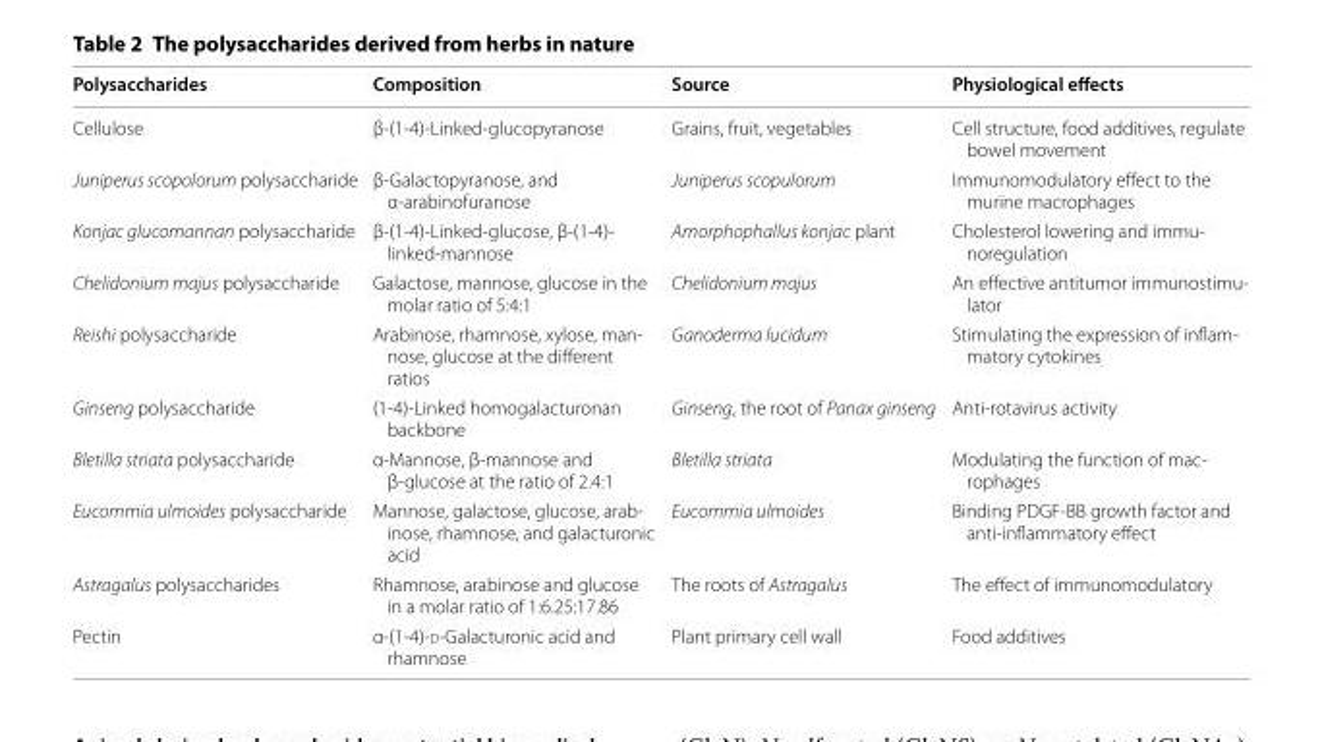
<table><thead><tr><td>Polysaccharides</td><td>Composition</td><td>Source</td><td>Physiological effects</td></tr></thead><tbody><tr><td>Cellulose</td><td>β-(1-4)-Linked-glucopyranose</td><td>Grains, fruit, vegetables</td><td>Cell structure, food additives, regulate bowel movement</td></tr><tr><td>Juniperus scopolorum polysaccharide</td><td>β-Galactopyranose, and α-arabinofuranose</td><td>Juniperus scopulorum</td><td>Immunomodulatory effect to the murine macrophages</td></tr><tr><td>Konjac glucomannan polysaccharide</td><td>β-(1-4)-Linked-glucose, β-(1-4)- linked-mannose</td><td>Amorphophallus konjac plant</td><td>Cholesterol lowering and immu- noregulation</td></tr><tr><td>Chelidonium majus polysaccharide</td><td>Galactose, mannose, glucose in the molar ratio of 5:4:1</td><td>Chelidonium majus</td><td>An effective antitumor immunostimu- lator</td></tr><tr><td>Reishi polysaccharide</td><td>Arabinose, rhamnose, xylose, man- nose, glucose at the different ratios</td><td>Ganoderma lucidum</td><td>Stimulating the expression of inflam- matory cytokines</td></tr><tr><td>Ginseng polysaccharide</td><td>(1-4)-Linked homogalacturonan backbone</td><td>Ginseng, the root of Panax ginseng</td><td>Anti-rotavirus activity</td></tr><tr><td>Bletilla striata polysaccharide</td><td>α-Mannose, β-mannose and β-glucose at the ratio of 2.4:1</td><td>Bletilla striata</td><td>Modulating the function of mac- rophages</td></tr><tr><td>Eucommia ulmoides polysaccharide</td><td>Mannose, galactose, glucose, arab- inose, rhamnose, and galacturonic acid</td><td>Eucommia ulmoides</td><td>Binding PDGF-BB growth factor and anti-inflammatory effect</td></tr><tr><td>Astragalus polysaccharides</td><td>Rhamnose, arabinose and glucose in a molar ratio of 1:6.25:17.86</td><td>The roots of Astragalus</td><td>The effect of immunomodulatory</td></tr><tr><td>Pectin</td><td>α-(1-4)-d-Galacturonic acid and rhamnose</td><td>Plant primary cell wall</td><td>Food additives</td></tr></tbody></table>